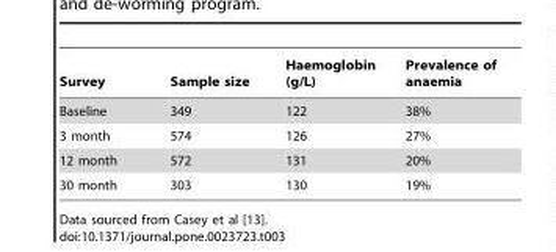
<table><thead><tr><td>Survey</td><td>Sample size</td><td>Haemoglobin (g/L)</td><td>Prevalence of anaemia</td></tr></thead><tbody><tr><td>Baseline</td><td>349</td><td>122</td><td>38%</td></tr><tr><td>3 month</td><td>574</td><td>126</td><td>27%</td></tr><tr><td>12 month</td><td>572</td><td>131</td><td>20%</td></tr><tr><td>30 month</td><td>303</td><td>130</td><td>19%</td></tr></tbody></table>